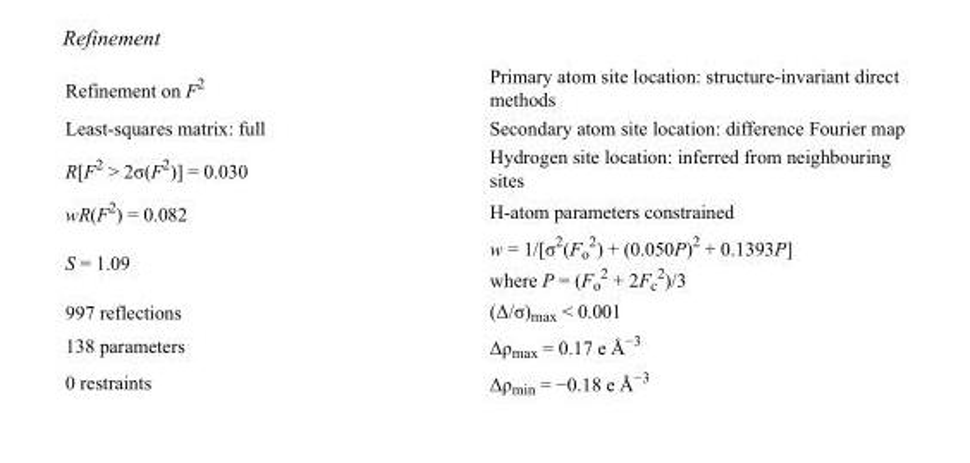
<table><tbody><tr><td>Refinement on F<sup>2</sup></td><td>Primary atom site location: structure-invariant direct methods</td></tr><tr><td>Least-squares matrix: full</td><td>Secondary atom site location: difference Fourier map</td></tr><tr><td>R[F<sup>2</sup> &gt; 2σ(F<sup>2</sup>)] = 0.030</td><td>Hydrogen site location: inferred from neighbouring sites</td></tr><tr><td>wR(F<sup>2</sup>) = 0.082</td><td>H-atom parameters constrained</td></tr><tr><td>S = 1.09</td><td>w = 1/[σ<sup>2</sup>(F<sub>o</sub> <sup>2</sup>) + (0.050P)<sup>2</sup> + 0.1393P] where P = (F<sub>o</sub> <sup>2</sup> + 2F<sub>c</sub> <sup>2</sup>)/3</td></tr><tr><td>997 reflections</td><td>(Δ/σ)<sub>max</sub> &lt; 0.001</td></tr><tr><td>138 parameters</td><td>Δρ<sub>max</sub> = 0.17 e Å<sup>−3</sup></td></tr><tr><td>0 restraints</td><td>Δρ<sub>min</sub> = −0.18 e Å<sup>−3</sup></td></tr></tbody></table>